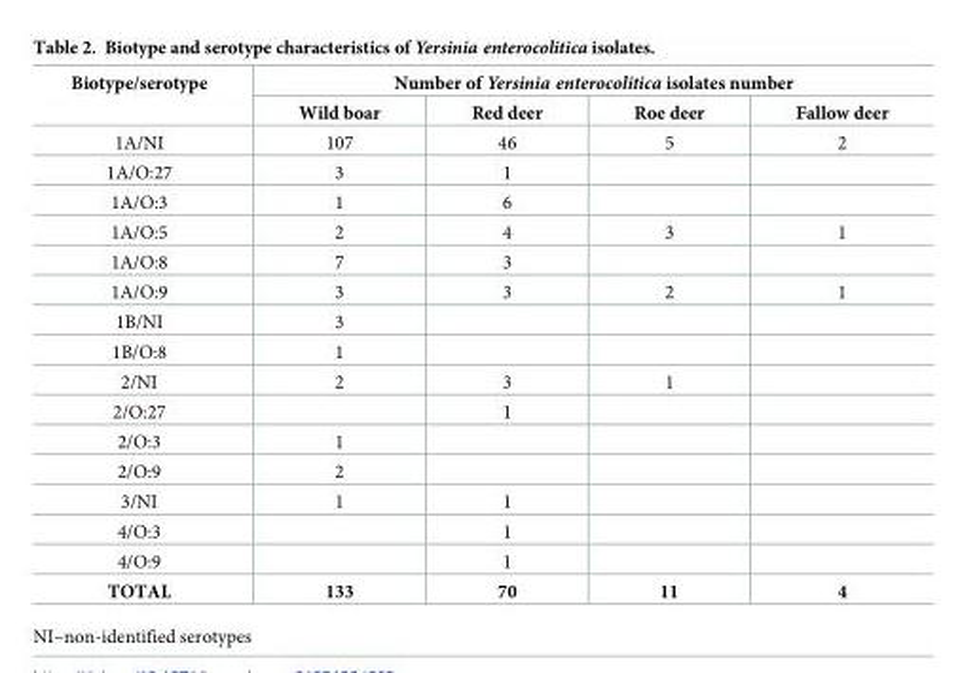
<table><thead><tr><td rowspan="2">Biotype/serotype</td><td colspan="4">Number of Yersinia enterocolitica isolates number</td></tr><tr><td>Wild boar</td><td>Red deer</td><td>Roe deer</td><td>Fallow deer</td></tr></thead><tbody><tr><td>1A/NI</td><td>107</td><td>46</td><td>5</td><td>2</td></tr><tr><td>1A/O:27</td><td>3</td><td>1</td><td></td><td></td></tr><tr><td>1A/O:3</td><td>1</td><td>6</td><td></td><td></td></tr><tr><td>1A/O:5</td><td>2</td><td>4</td><td>3</td><td>1</td></tr><tr><td>1A/O:8</td><td>7</td><td>3</td><td></td><td></td></tr><tr><td>1A/O:9</td><td>3</td><td>3</td><td>2</td><td>1</td></tr><tr><td>1B/NI</td><td>3</td><td></td><td></td><td></td></tr><tr><td>1B/O:8</td><td>1</td><td></td><td></td><td></td></tr><tr><td>2/NI</td><td>2</td><td>3</td><td>1</td><td></td></tr><tr><td>2/O:27</td><td></td><td>1</td><td></td><td></td></tr><tr><td>2/O:3</td><td>1</td><td></td><td></td><td></td></tr><tr><td>2/O:9</td><td>2</td><td></td><td></td><td></td></tr><tr><td>3/NI</td><td>1</td><td>1</td><td></td><td></td></tr><tr><td>4/O:3</td><td></td><td>1</td><td></td><td></td></tr><tr><td>4/O:9</td><td></td><td>1</td><td></td><td></td></tr><tr><td>TOTAL</td><td>133</td><td>70</td><td>11</td><td>4</td></tr></tbody></table>